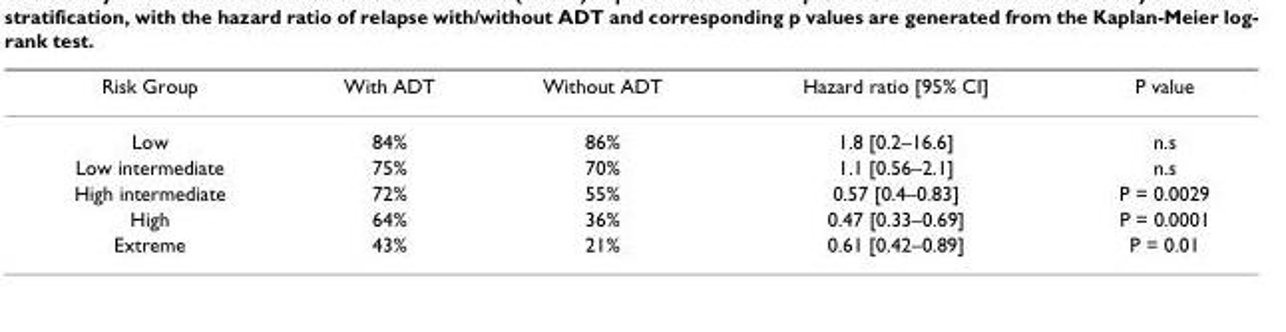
<table><thead><tr><td>Risk Group</td><td>With ADT</td><td>Without ADT</td><td>Hazard ratio [95% CI]</td><td>P value</td></tr></thead><tbody><tr><td>Low</td><td>84%</td><td>86%</td><td>1.8 [0.2–16.6]</td><td>n.s</td></tr><tr><td>Low intermediate</td><td>75%</td><td>70%</td><td>1.1 [0.56–2.1]</td><td>n.s</td></tr><tr><td>High intermediate</td><td>72%</td><td>55%</td><td>0.57 [0.4–0.83]</td><td>P = 0.0029</td></tr><tr><td>High</td><td>64%</td><td>36%</td><td>0.47 [0.33–0.69]</td><td>P = 0.0001</td></tr><tr><td>Extreme</td><td>43%</td><td>21%</td><td>0.61 [0.42–0.89]</td><td>P = 0.01</td></tr></tbody></table>